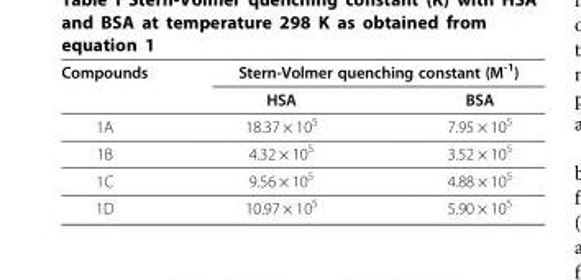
<table><thead><tr><td rowspan="2">Compounds</td><td colspan="2">Stern-Volmer quenching constant (M<sup>-1</sup>)</td></tr><tr><td>HSA</td><td>BSA</td></tr></thead><tbody><tr><td>1A</td><td>18.37 × 10<sup>5</sup></td><td>7.95 × 10<sup>5</sup></td></tr><tr><td>1B</td><td>4.32 × 10<sup>5</sup></td><td>3.52 × 10<sup>5</sup></td></tr><tr><td>1C</td><td>9.56 × 10<sup>5</sup></td><td>4.88 × 10<sup>5</sup></td></tr><tr><td>1D</td><td>10.97 × 10<sup>5</sup></td><td>5.90 × 10<sup>5</sup></td></tr></tbody></table>